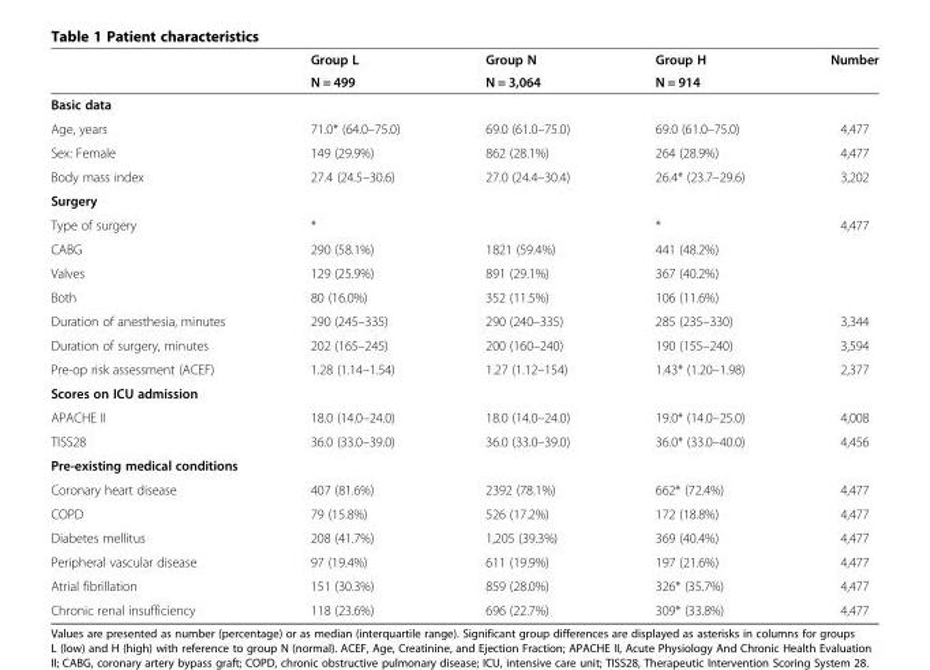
<table><thead><tr><td rowspan="2"></td><td rowspan="2">Group L N = 499</td><td rowspan="2">Group N N = 3,064</td><td rowspan="2">Group H N = 914</td><td rowspan="2">Number</td></tr><tr></tr></thead><tbody><tr><td colspan="5">Basic data</td></tr><tr><td>Age, years</td><td>71.0* (64.0–75.0)</td><td>69.0 (61.0–75.0)</td><td>69.0 (61.0–75.0)</td><td>4,477</td></tr><tr><td>Sex: Female</td><td>149 (29.9%)</td><td>862 (28.1%)</td><td>264 (28.9%)</td><td>4,477</td></tr><tr><td>Body mass index</td><td>27.4 (24.5–30.6)</td><td>27.0 (24.4–30.4)</td><td>26.4* (23.7–29.6)</td><td>3,202</td></tr><tr><td colspan="5">Surgery</td></tr><tr><td>Type of surgery</td><td>*</td><td></td><td>*</td><td>4,477</td></tr><tr><td>CABG</td><td>290 (58.1%)</td><td>1821 (59.4%)</td><td>441 (48.2%)</td><td></td></tr><tr><td>Valves</td><td>129 (25.9%)</td><td>891 (29.1%)</td><td>367 (40.2%)</td><td></td></tr><tr><td>Both</td><td>80 (16.0%)</td><td>352 (11.5%)</td><td>106 (11.6%)</td><td></td></tr><tr><td>Duration of anesthesia, minutes</td><td>290 (245–335)</td><td>290 (240–335)</td><td>285 (235–330)</td><td>3,344</td></tr><tr><td>Duration of surgery, minutes</td><td>202 (165–245)</td><td>200 (160–240)</td><td>190 (155–240)</td><td>3,594</td></tr><tr><td>Pre-op risk assessment (ACEF)</td><td>1.28 (1.14–1.54)</td><td>1.27 (1.12–154)</td><td>1.43* (1.20–1.98)</td><td>2,377</td></tr><tr><td colspan="5">Scores on ICU admission</td></tr><tr><td>APACHE II</td><td>18.0 (14.0–24.0)</td><td>18.0 (14.0–24.0)</td><td>19.0* (14.0–25.0)</td><td>4,008</td></tr><tr><td>TISS28</td><td>36.0 (33.0–39.0)</td><td>36.0 (33.0–39.0)</td><td>36.0* (33.0–40.0)</td><td>4,456</td></tr><tr><td colspan="5">Pre-existing medical conditions</td></tr><tr><td>Coronary heart disease</td><td>407 (81.6%)</td><td>2392 (78.1%)</td><td>662* (72.4%)</td><td>4,477</td></tr><tr><td>COPD</td><td>79 (15.8%)</td><td>526 (17.2%)</td><td>172 (18.8%)</td><td>4,477</td></tr><tr><td>Diabetes mellitus</td><td>208 (41.7%)</td><td>1,205 (39.3%)</td><td>369 (40.4%)</td><td>4,477</td></tr><tr><td>Peripheral vascular disease</td><td>97 (19.4%)</td><td>611 (19.9%)</td><td>197 (21.6%)</td><td>4,477</td></tr><tr><td>Atrial fibrillation</td><td>151 (30.3%)</td><td>859 (28.0%)</td><td>326* (35.7%)</td><td>4,477</td></tr><tr><td>Chronic renal insufficiency</td><td>118 (23.6%)</td><td>696 (22.7%)</td><td>309* (33.8%)</td><td>4,477</td></tr></tbody></table>